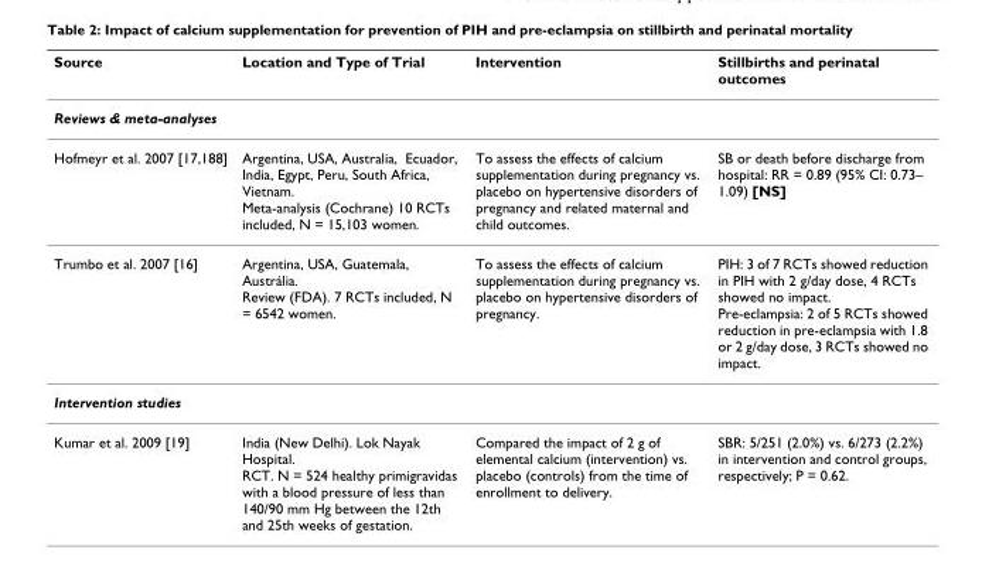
<table><thead><tr><td>Source</td><td>Location and Type of Trial</td><td>Intervention</td><td>Stillbirths and perinatal outcomes</td></tr></thead><tbody><tr><td colspan="4">Reviews &amp; meta-analyses</td></tr><tr><td>Hofmeyr et al. 2007 [17,188]</td><td>Argentina, USA, Australia, Ecuador, India, Egypt, Peru, South Africa, Vietnam. Meta-analysis (Cochrane) 10 RCTs included, N = 15,103 women.</td><td>To assess the effects of calcium supplementation during pregnancy vs. placebo on hypertensive disorders of pregnancy and related maternal and child outcomes.</td><td>SB or death before discharge from hospital: RR = 0.89 (95% CI: 0.73– 1.09) [NS]</td></tr><tr><td>Trumbo et al. 2007 [16]</td><td>Argentina, USA, Guatemala, Austrália. Review (FDA). 7 RCTs included, N = 6542 women.</td><td>To assess the effects of calcium supplementation during pregnancy vs. placebo on hypertensive disorders of pregnancy.</td><td>PIH: 3 of 7 RCTs showed reduction in PIH with 2 g/day dose, 4 RCTs showed no impact. Pre-eclampsia: 2 of 5 RCTs showed reduction in pre-eclampsia with 1.8 or 2 g/day dose, 3 RCTs showed no impact.</td></tr><tr><td colspan="4">Intervention studies</td></tr><tr><td>Kumar et al. 2009 [19]</td><td>India (New Delhi). Lok Nayak Hospital. RCT. N = 524 healthy primigravidas with a blood pressure of less than 140/90 mm Hg between the 12th and 25th weeks of gestation.</td><td>Compared the impact of 2 g of elemental calcium (intervention) vs. placebo (controls) from the time of enrollment to delivery.</td><td>SBR: 5/251 (2.0%) vs. 6/273 (2.2%) in intervention and control groups, respectively; P = 0.62.</td></tr></tbody></table>